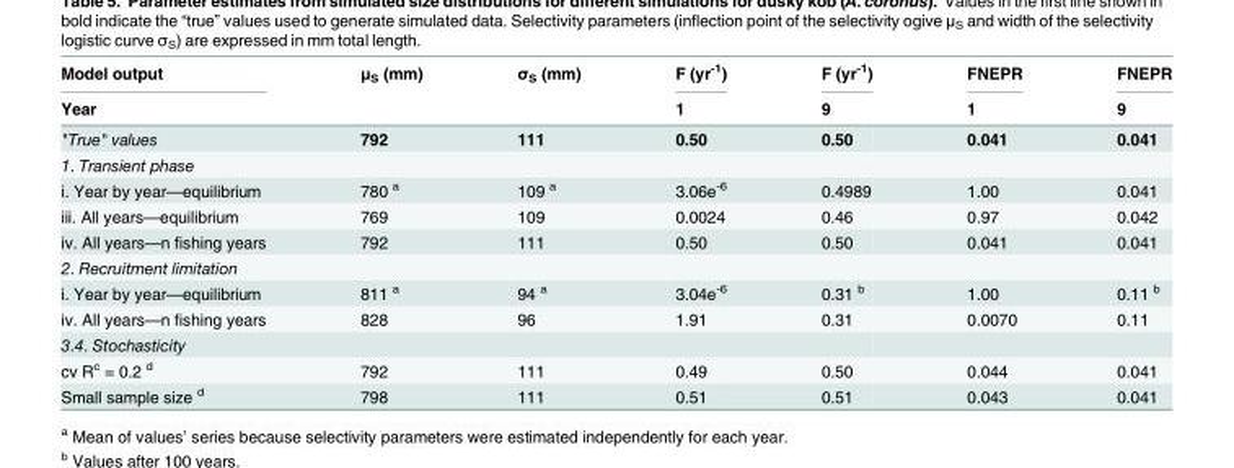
<table><thead><tr><td rowspan="2">Model output Year</td><td rowspan="2">μ<sub>S</sub> (mm)</td><td rowspan="2">σ<sub>S</sub> (mm)</td><td rowspan="2">F (yr<sup>-1</sup>) 1</td><td rowspan="2">F (yr<sup>-1</sup>) 9</td><td rowspan="2">FNEPR 1</td><td rowspan="2">FNEPR 9</td></tr><tr></tr></thead><tbody><tr><td>&quot;True&quot; values</td><td>792</td><td>111</td><td>0.50</td><td>0.50</td><td>0.041</td><td>0.041</td></tr><tr><td colspan="7">1. Transient phase</td></tr><tr><td>i. Year by year—equilibrium</td><td>780 <sup>a</sup></td><td>109 <sup>a</sup></td><td>3.06e<sup>-6</sup></td><td>0.4989</td><td>1.00</td><td>0.041</td></tr><tr><td>iii. All years—equilibrium</td><td>769</td><td>109</td><td>0.0024</td><td>0.46</td><td>0.97</td><td>0.042</td></tr><tr><td>iv. All years—n fishing years</td><td>792</td><td>111</td><td>0.50</td><td>0.50</td><td>0.041</td><td>0.041</td></tr><tr><td colspan="7">2. Recruitment limitation</td></tr><tr><td>i. Year by year—equilibrium</td><td>811 <sup>a</sup></td><td>94 <sup>a</sup></td><td>3.04e<sup>-6</sup></td><td>0.31 <sup>b</sup></td><td>1.00</td><td>0.11 <sup>b</sup></td></tr><tr><td>iv. All years—n fishing years</td><td>828</td><td>96</td><td>1.91</td><td>0.31</td><td>0.0070</td><td>0.11</td></tr><tr><td colspan="7">3.4. Stochasticity</td></tr><tr><td>cv R<sup>c</sup> = 0.2 <sup>d</sup></td><td>792</td><td>111</td><td>0.49</td><td>0.50</td><td>0.044</td><td>0.041</td></tr><tr><td>Small sample size <sup>d</sup></td><td>798</td><td>111</td><td>0.51</td><td>0.51</td><td>0.043</td><td>0.041</td></tr></tbody></table>